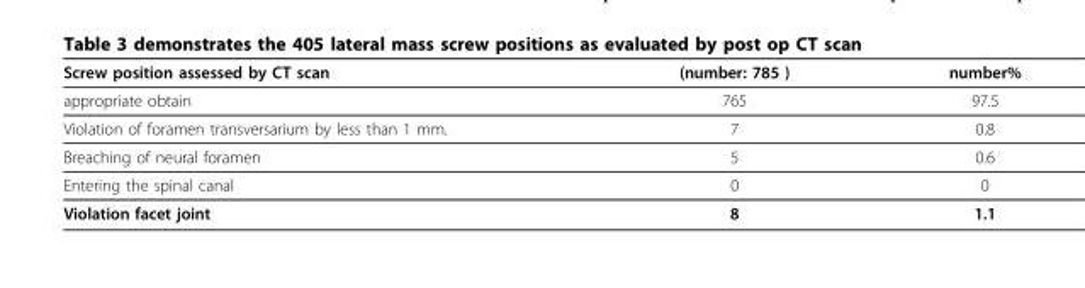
<table><thead><tr><td>Screw position assessed by CT scan</td><td>(number: 785 )</td><td>number%</td></tr></thead><tbody><tr><td>appropriate obtain</td><td>765</td><td>97.5</td></tr><tr><td>Violation of foramen transversarium by less than 1 mm.</td><td>7</td><td>0.8</td></tr><tr><td>Breaching of neural foramen</td><td>5</td><td>0.6</td></tr><tr><td>Entering the spinal canal</td><td>0</td><td>0</td></tr><tr><td>Violation facet joint</td><td>8</td><td>1.1</td></tr></tbody></table>